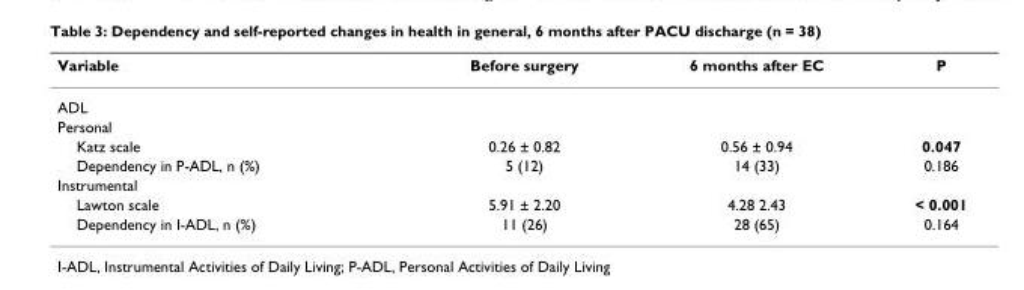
<table><thead><tr><td>Variable</td><td>Before surgery</td><td>6 months after EC</td><td>P</td></tr></thead><tbody><tr><td colspan="4">ADL</td></tr><tr><td colspan="4">Personal</td></tr><tr><td>Katz scale</td><td>0.26 ± 0.82</td><td>0.56 ± 0.94</td><td>0.047</td></tr><tr><td>Dependency in P-ADL, n (%)</td><td>5 (12)</td><td>14 (33)</td><td>0.186</td></tr><tr><td colspan="4">Instrumental</td></tr><tr><td>Lawton scale</td><td>5.91 ± 2.20</td><td>4.28 2.43</td><td>&lt; 0.001</td></tr><tr><td>Dependency in I-ADL, n (%)</td><td>11 (26)</td><td>28 (65)</td><td>0.164</td></tr></tbody></table>